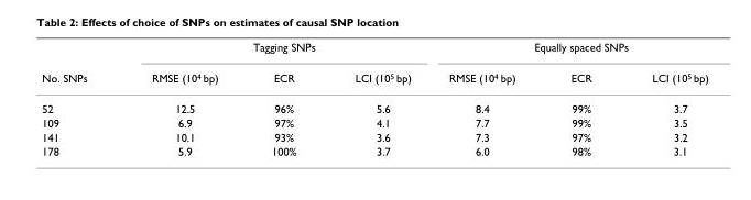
<table><thead><tr><td rowspan="2">No. SNPs</td><td colspan="3">Tagging SNPs</td><td colspan="3">Equally spaced SNPs</td></tr><tr><td>RMSE (10<sup>4</sup> bp)</td><td>ECR</td><td>LCI (10<sup>5</sup> bp)</td><td>RMSE (10<sup>4</sup> bp)</td><td>ECR</td><td>LCI (10<sup>5</sup> bp)</td></tr></thead><tbody><tr><td>52</td><td>12.5</td><td>96%</td><td>5.6</td><td>8.4</td><td>99%</td><td>3.7</td></tr><tr><td>109</td><td>6.9</td><td>97%</td><td>4.1</td><td>7.7</td><td>99%</td><td>3.5</td></tr><tr><td>141</td><td>10.1</td><td>93%</td><td>3.6</td><td>7.3</td><td>97%</td><td>3.2</td></tr><tr><td>178</td><td>5.9</td><td>100%</td><td>3.7</td><td>6.0</td><td>98%</td><td>3.1</td></tr></tbody></table>